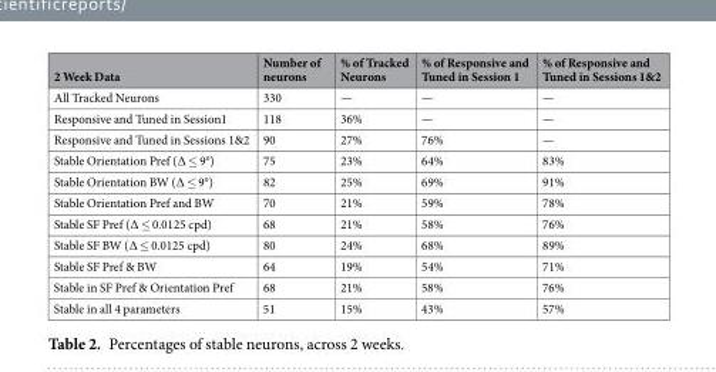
<table><thead><tr><td>2 Week Data</td><td>Number of neurons</td><td>% of Tracked Neurons</td><td>% of Responsive and Tuned in Session 1</td><td>% of Responsive and Tuned in Sessions 1&amp;2</td></tr></thead><tbody><tr><td>All Tracked Neurons</td><td>330</td><td>—</td><td>—</td><td>—</td></tr><tr><td>Responsive and Tuned in Session1</td><td>118</td><td>36%</td><td>—</td><td>—</td></tr><tr><td>Responsive and Tuned in Sessions 1&amp;2</td><td>90</td><td>27%</td><td>76%</td><td>—</td></tr><tr><td>Stable Orientation Pref (∆ ≤ 9°)</td><td>75</td><td>23%</td><td>64%</td><td>83%</td></tr><tr><td>Stable Orientation BW (∆ ≤ 9°)</td><td>82</td><td>25%</td><td>69%</td><td>91%</td></tr><tr><td>Stable Orientation Pref and BW</td><td>70</td><td>21%</td><td>59%</td><td>78%</td></tr><tr><td>Stable SF Pref (∆ ≤ 0.0125 cpd)</td><td>68</td><td>21%</td><td>58%</td><td>76%</td></tr><tr><td>Stable SF BW (∆ ≤ 0.0125 cpd)</td><td>80</td><td>24%</td><td>68%</td><td>89%</td></tr><tr><td>Stable SF Pref &amp; BW</td><td>64</td><td>19%</td><td>54%</td><td>71%</td></tr><tr><td>Stable in SF Pref &amp; Orientation Pref</td><td>68</td><td>21%</td><td>58%</td><td>76%</td></tr><tr><td>Stable in all 4 parameters</td><td>51</td><td>15%</td><td>43%</td><td>57%</td></tr></tbody></table>